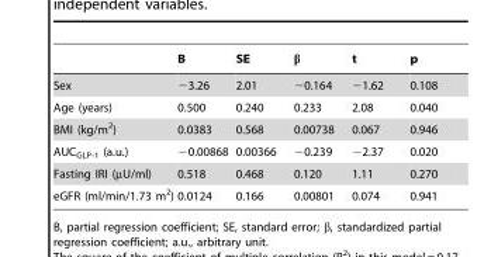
<table><thead><tr><td></td><td>B</td><td>SE</td><td>β</td><td>t</td><td>p</td></tr></thead><tbody><tr><td>Sex</td><td>−3.26</td><td>2.01</td><td>−0.164</td><td>−1.62</td><td>0.108</td></tr><tr><td>Age (years)</td><td>0.500</td><td>0.240</td><td>0.233</td><td>2.08</td><td>0.040</td></tr><tr><td>BMI (kg/m<sup>2</sup>)</td><td>0.0383</td><td>0.568</td><td>0.00738</td><td>0.067</td><td>0.946</td></tr><tr><td>AUC<sub>GLP-1</sub> (a.u.)</td><td>−0.00868</td><td>0.00366</td><td>−0.239</td><td>−2.37</td><td>0.020</td></tr><tr><td>Fasting IRI (µU/ml)</td><td>0.518</td><td>0.468</td><td>0.120</td><td>1.11</td><td>0.270</td></tr><tr><td>eGFR (ml/min/1.73 m<sup>2</sup>)</td><td>0.0124</td><td>0.166</td><td>0.00801</td><td>0.074</td><td>0.941</td></tr></tbody></table>